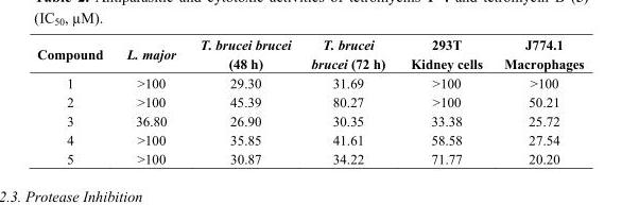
<table><thead><tr><td>Compound</td><td>L. major</td><td>T. brucei brucei (48 h)</td><td>T. brucei brucei (72 h)</td><td>293T Kidney cells</td><td>J774.1 Macrophages</td></tr></thead><tbody><tr><td>1</td><td>&gt;100</td><td>29.30</td><td>31.69</td><td>&gt;100</td><td>&gt;100</td></tr><tr><td>2</td><td>&gt;100</td><td>45.39</td><td>80.27</td><td>&gt;100</td><td>50.21</td></tr><tr><td>3</td><td>36.80</td><td>26.90</td><td>30.35</td><td>33.38</td><td>25.72</td></tr><tr><td>4</td><td>&gt;100</td><td>35.85</td><td>41.61</td><td>58.58</td><td>27.54</td></tr><tr><td>5</td><td>&gt;100</td><td>30.87</td><td>34.22</td><td>71.77</td><td>20.20</td></tr></tbody></table>